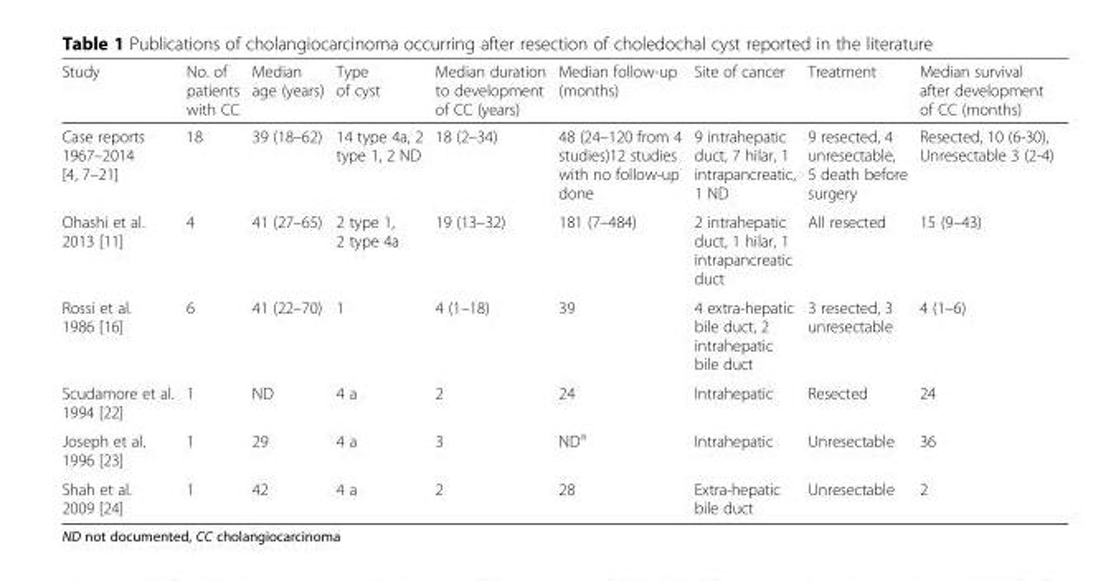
<table><thead><tr><td>Study</td><td>No. of patients with CC</td><td>Median age (years)</td><td>Type of cyst</td><td>Median duration to development of CC (years)</td><td>Median follow-up (months)</td><td>Site of cancer</td><td>Treatment</td><td>Median survival after development of CC (months)</td></tr></thead><tbody><tr><td>Case reports 1967–2014 [4, 7–21]</td><td>18</td><td>39 (18–62)</td><td>14 type 4a, 2 type 1, 2 ND</td><td>18 (2–34)</td><td>48 (24–120 from 4 studies)12 studies with no follow-up done</td><td>9 intrahepatic duct, 7 hilar, 1 intrapancreatic, 1 ND</td><td>9 resected, 4 unresectable, 5 death before surgery</td><td>Resected, 10 (6-30), Unresectable 3 (2-4)</td></tr><tr><td>Ohashi et al. 2013 [11]</td><td>4</td><td>41 (27–65)</td><td>2 type 1, 2 type 4a</td><td>19 (13–32)</td><td>181 (7–484)</td><td>2 intrahepatic duct, 1 hilar, 1 intrapancreatic duct</td><td>All resected</td><td>15 (9–43)</td></tr><tr><td>Rossi et al. 1986 [16]</td><td>6</td><td>41 (22–70)</td><td>1</td><td>4 (1–18)</td><td>39</td><td>4 extra-hepatic bile duct, 2 intrahepatic bile duct</td><td>3 resected, 3 unresectable</td><td>4 (1–6)</td></tr><tr><td>Scudamore et al. 1994 [22]</td><td>1</td><td>ND</td><td>4 a</td><td>2</td><td>24</td><td>Intrahepatic</td><td>Resected</td><td>24</td></tr><tr><td>Joseph et al. 1996 [23]</td><td>1</td><td>29</td><td>4 a</td><td>3</td><td>ND<sup>a</sup></td><td>Intrahepatic</td><td>Unresectable</td><td>36</td></tr><tr><td>Shah et al. 2009 [24]</td><td>1</td><td>42</td><td>4 a</td><td>2</td><td>28</td><td>Extra-hepatic bile duct</td><td>Unresectable</td><td>2</td></tr></tbody></table>